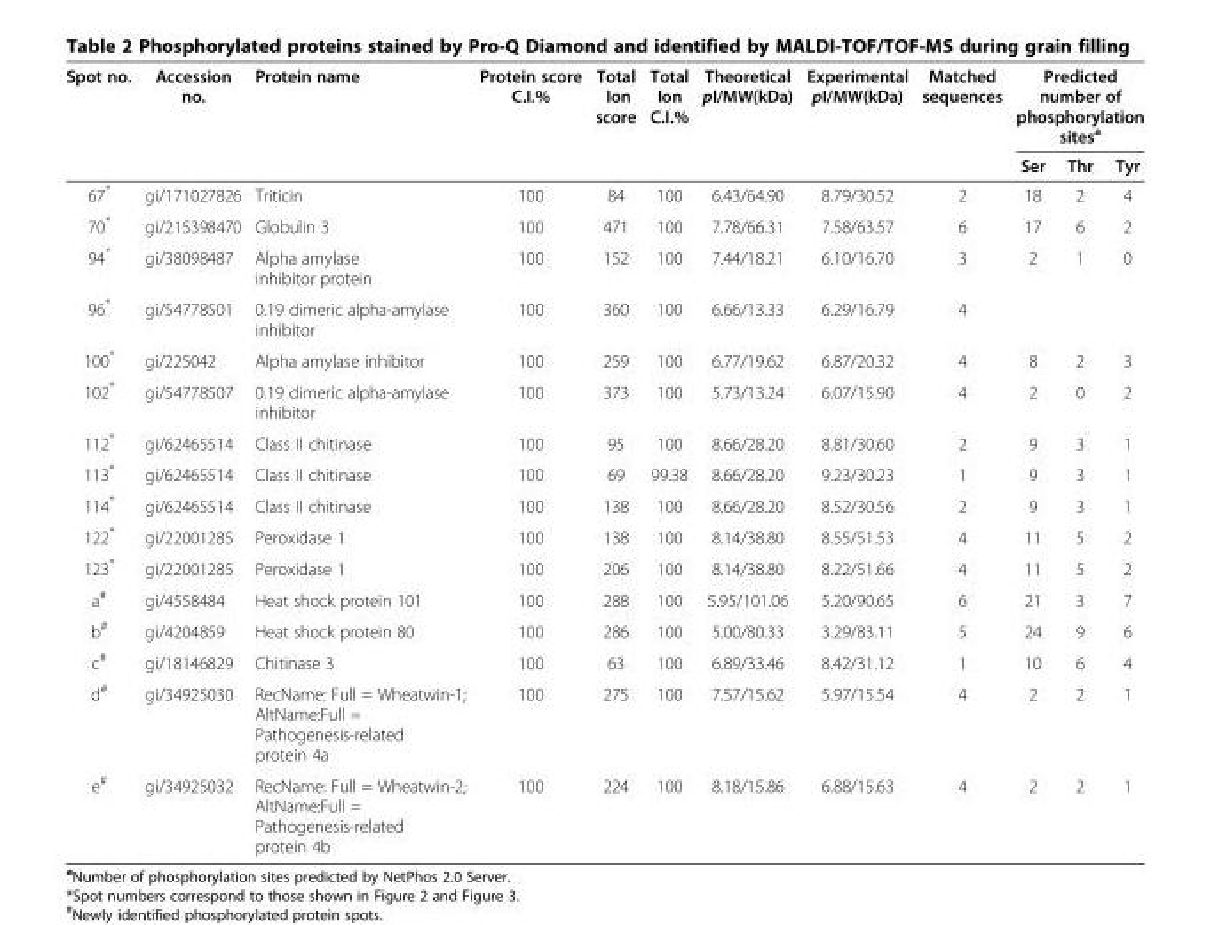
<table><thead><tr><td rowspan="2">Spot no.</td><td rowspan="2">Accession no.</td><td rowspan="2">Protein name</td><td rowspan="2">Protein score C.I.%</td><td rowspan="2">Total Ion score</td><td rowspan="2">Total Ion C.I.%</td><td rowspan="2">Theoretical pI/MW(kDa)</td><td rowspan="2">Experimental pI/MW(kDa)</td><td rowspan="2">Matched sequences</td><td colspan="3">Predicted number of phosphorylation sites<sup>a</sup></td></tr><tr><td>Ser</td><td>Thr</td><td>Tyr</td></tr></thead><tbody><tr><td>67*</td><td>gi/171027826</td><td>Triticin</td><td>100</td><td>84</td><td>100</td><td>6.43/64.90</td><td>8.79/30.52</td><td>2</td><td>18</td><td>2</td><td>4</td></tr><tr><td>70*</td><td>gi/215398470</td><td>Globulin 3</td><td>100</td><td>471</td><td>100</td><td>7.78/66.31</td><td>7.58/63.57</td><td>6</td><td>17</td><td>6</td><td>2</td></tr><tr><td>94*</td><td>gi/38098487</td><td>Alpha amylase inhibitor protein</td><td>100</td><td>152</td><td>100</td><td>7.44/18.21</td><td>6.10/16.70</td><td>3</td><td>2</td><td>1</td><td>0</td></tr><tr><td>96*</td><td>gi/54778501</td><td>0.19 dimeric alpha-amylase inhibitor</td><td>100</td><td>360</td><td>100</td><td>6.66/13.33</td><td>6.29/16.79</td><td>4</td><td></td><td></td><td></td></tr><tr><td>100*</td><td>gi/225042</td><td>Alpha amylase inhibitor</td><td>100</td><td>259</td><td>100</td><td>6.77/19.62</td><td>6.87/20.32</td><td>4</td><td>8</td><td>2</td><td>3</td></tr><tr><td>102*</td><td>gi/54778507</td><td>0.19 dimeric alpha-amylase inhibitor</td><td>100</td><td>373</td><td>100</td><td>5.73/13.24</td><td>6.07/15.90</td><td>4</td><td>2</td><td>0</td><td>2</td></tr><tr><td>112*</td><td>gi/62465514</td><td>Class II chitinase</td><td>100</td><td>95</td><td>100</td><td>8.66/28.20</td><td>8.81/30.60</td><td>2</td><td>9</td><td>3</td><td>1</td></tr><tr><td>113*</td><td>gi/62465514</td><td>Class II chitinase</td><td>100</td><td>69</td><td>99.38</td><td>8.66/28.20</td><td>9.23/30.23</td><td>1</td><td>9</td><td>3</td><td>1</td></tr><tr><td>114*</td><td>gi/62465514</td><td>Class II chitinase</td><td>100</td><td>138</td><td>100</td><td>8.66/28.20</td><td>8.52/30.56</td><td>2</td><td>9</td><td>3</td><td>1</td></tr><tr><td>122*</td><td>gi/22001285</td><td>Peroxidase 1</td><td>100</td><td>138</td><td>100</td><td>8.14/38.80</td><td>8.55/51.53</td><td>4</td><td>11</td><td>5</td><td>2</td></tr><tr><td>123*</td><td>gi/22001285</td><td>Peroxidase 1</td><td>100</td><td>206</td><td>100</td><td>8.14/38.80</td><td>8.22/51.66</td><td>4</td><td>11</td><td>5</td><td>2</td></tr><tr><td>a<sup>#</sup></td><td>gi/4558484</td><td>Heat shock protein 101</td><td>100</td><td>288</td><td>100</td><td>5.95/101.06</td><td>5.20/90.65</td><td>6</td><td>21</td><td>3</td><td>7</td></tr><tr><td>b<sup>#</sup></td><td>gi/4204859</td><td>Heat shock protein 80</td><td>100</td><td>286</td><td>100</td><td>5.00/80.33</td><td>3.29/83.11</td><td>5</td><td>24</td><td>9</td><td>6</td></tr><tr><td>c<sup>#</sup></td><td>gi/18146829</td><td>Chitinase 3</td><td>100</td><td>63</td><td>100</td><td>6.89/33.46</td><td>8.42/31.12</td><td>1</td><td>10</td><td>6</td><td>4</td></tr><tr><td>d<sup>#</sup></td><td>gi/34925030</td><td>RecName: Full = Wheatwin-1; AltName:Full = Pathogenesis-related protein 4a</td><td>100</td><td>275</td><td>100</td><td>7.57/15.62</td><td>5.97/15.54</td><td>4</td><td>2</td><td>2</td><td>1</td></tr><tr><td>e<sup>#</sup></td><td>gi/34925032</td><td>RecName: Full = Wheatwin-2; AltName:Full = Pathogenesis-related protein 4b</td><td>100</td><td>224</td><td>100</td><td>8.18/15.86</td><td>6.88/15.63</td><td>4</td><td>2</td><td>2</td><td>1</td></tr></tbody></table>